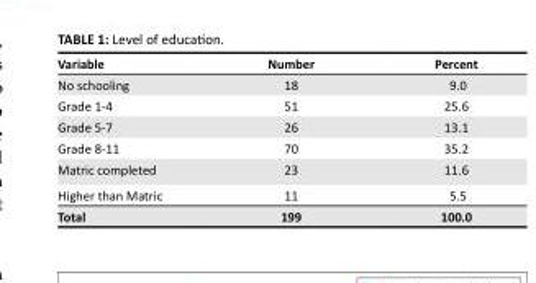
<table><thead><tr><td>Variable</td><td>Number</td><td>Percent</td></tr></thead><tbody><tr><td>No schooling</td><td>18</td><td>9.0</td></tr><tr><td>Grade 1-4</td><td>51</td><td>25.6</td></tr><tr><td>Grade 5-7</td><td>26</td><td>13.1</td></tr><tr><td>Grade 8-11</td><td>70</td><td>35.2</td></tr><tr><td>Matric completed</td><td>23</td><td>11.6</td></tr><tr><td>Higher than Matric</td><td>11</td><td>5.5</td></tr><tr><td>Total</td><td>199</td><td>100.0</td></tr></tbody></table>